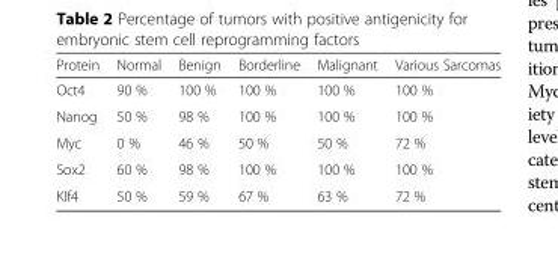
<table><thead><tr><td>Protein</td><td>Normal</td><td>Benign</td><td>Borderline</td><td>Malignant</td><td>Various Sarcomas</td></tr></thead><tbody><tr><td>Oct4</td><td>90 %</td><td>100 %</td><td>100 %</td><td>100 %</td><td>100 %</td></tr><tr><td>Nanog</td><td>50 %</td><td>98 %</td><td>100 %</td><td>100 %</td><td>100 %</td></tr><tr><td>Myc</td><td>0 %</td><td>46 %</td><td>50 %</td><td>50 %</td><td>72 %</td></tr><tr><td>Sox2</td><td>60 %</td><td>98 %</td><td>100 %</td><td>100 %</td><td>100 %</td></tr><tr><td>Klf4</td><td>50 %</td><td>59 %</td><td>67 %</td><td>63 %</td><td>72 %</td></tr></tbody></table>